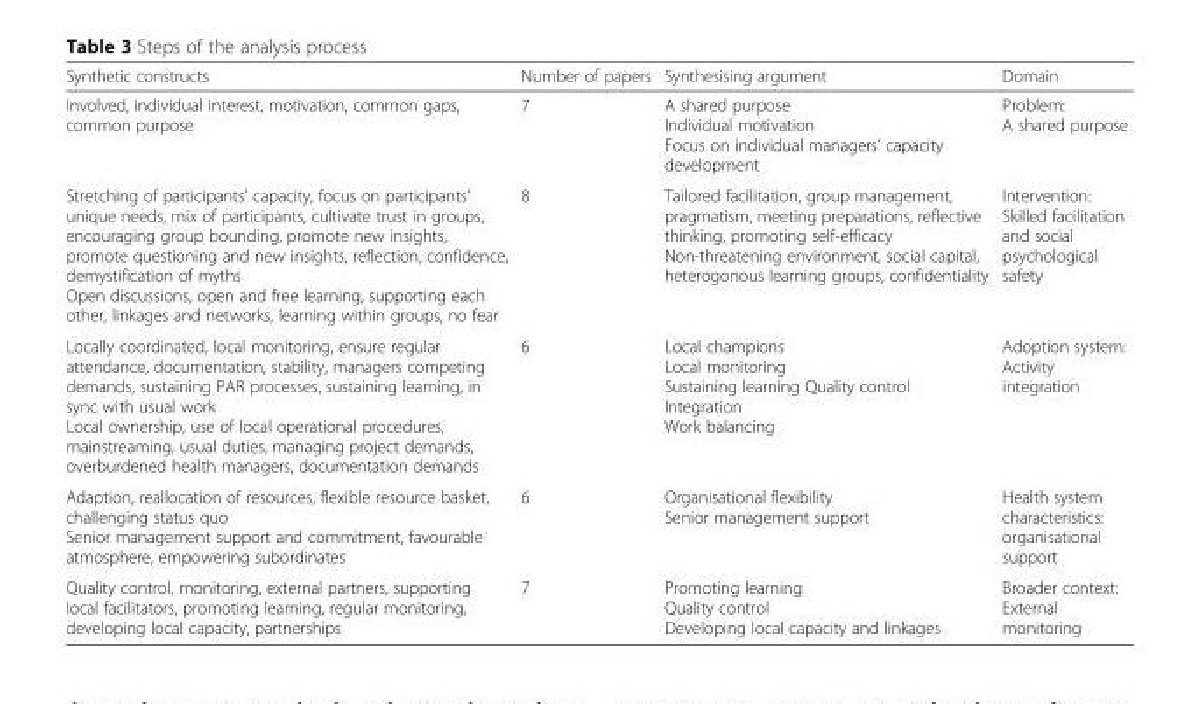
<table><thead><tr><td>Synthetic constructs</td><td>Number of papers</td><td>Synthesising argument</td><td>Domain</td></tr></thead><tbody><tr><td>Involved, individual interest, motivation, common gaps, common purpose</td><td>7</td><td>A shared purpose Individual motivation Focus on individual managers’ capacity development</td><td>Problem: A shared purpose</td></tr><tr><td>Stretching of participants’ capacity, focus on participants’ unique needs, mix of participants, cultivate trust in groups, encouraging group bounding, promote new insights, promote questioning and new insights, reflection, confidence, demystification of myths Open discussions, open and free learning, supporting each other, linkages and networks, learning within groups, no fear</td><td>8</td><td>Tailored facilitation, group management, pragmatism, meeting preparations, reflective thinking, promoting self-efficacy Non-threatening environment, social capital, heterogonous learning groups, confidentiality</td><td>Intervention: Skilled facilitation and social psychological safety</td></tr><tr><td>Locally coordinated, local monitoring, ensure regular attendance, documentation, stability, managers competing demands, sustaining PAR processes, sustaining learning, in sync with usual work Local ownership, use of local operational procedures, mainstreaming, usual duties, managing project demands, overburdened health managers, documentation demands</td><td>6</td><td>Local champions Local monitoring Sustaining learning Quality control Integration Work balancing</td><td>Adoption system: Activity integration</td></tr><tr><td>Adaption, reallocation of resources, flexible resource basket, challenging status quo Senior management support and commitment, favourable atmosphere, empowering subordinates</td><td>6</td><td>Organisational flexibility Senior management support</td><td>Health system characteristics: organisational support</td></tr><tr><td>Quality control, monitoring, external partners, supporting local facilitators, promoting learning, regular monitoring, developing local capacity, partnerships</td><td>7</td><td>Promoting learning Quality control Developing local capacity and linkages</td><td>Broader context: External monitoring</td></tr></tbody></table>